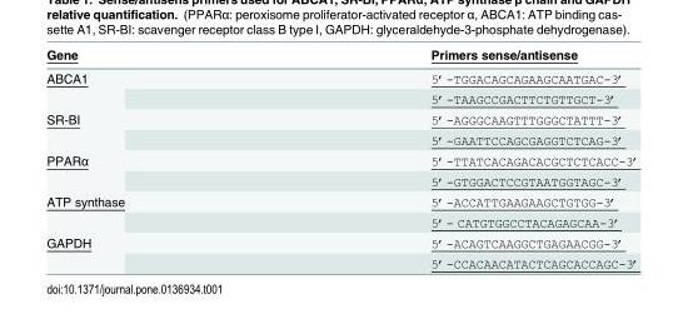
<table><thead><tr><td>Gene</td><td>Primers sense/antisense</td></tr></thead><tbody><tr><td rowspan="2">ABCA1</td><td>5’-TGGACAGCAGAAGCAATGAC-3’</td></tr><tr><td>5’-TAAGCCGACTTCTGTTGCT-3’</td></tr><tr><td rowspan="2">SR-BI</td><td>5’-AGGGCAAGTTTGGGCTATTT-3’</td></tr><tr><td>5’-GAATTCCAGCGAGGTCTCAG-3’</td></tr><tr><td rowspan="2">PPARα</td><td>5’-TTATCACAGACACGCTCTCACC-3’</td></tr><tr><td>5’-GTGGACTCCGTAATGGTAGC-3’</td></tr><tr><td rowspan="2">ATP synthase</td><td>5’-ACCATTGAAGAAGCTGTGG-3’</td></tr><tr><td>5’- CATGTGGCCTACAGAGCAA-3’</td></tr><tr><td rowspan="2">GAPDH</td><td>5’-ACAGTCAAGGCTGAGAACGG-3’</td></tr><tr><td>5’-CCACAACATACTCAGCACCAGC-3’</td></tr></tbody></table>